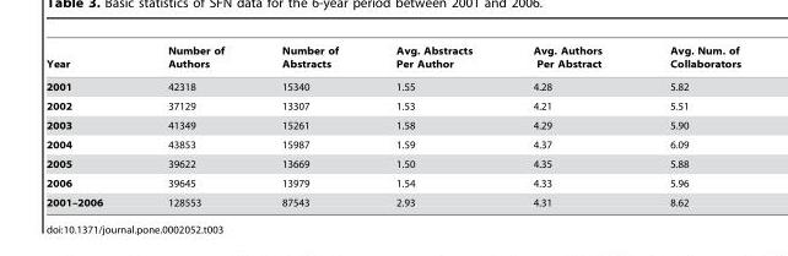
<table><thead><tr><td>Year</td><td>Number of Authors</td><td>Number of Abstracts</td><td>Avg. Abstracts Per Author</td><td>Avg. Authors Per Abstract</td><td>Avg. Num. of Collaborators</td></tr></thead><tbody><tr><td>2001</td><td>42318</td><td>15340</td><td>1.55</td><td>4.28</td><td>5.82</td></tr><tr><td>2002</td><td>37129</td><td>13307</td><td>1.53</td><td>4.21</td><td>5.51</td></tr><tr><td>2003</td><td>41349</td><td>15261</td><td>1.58</td><td>4.29</td><td>5.90</td></tr><tr><td>2004</td><td>43853</td><td>15987</td><td>1.59</td><td>4.37</td><td>6.09</td></tr><tr><td>2005</td><td>39622</td><td>13669</td><td>1.50</td><td>4.35</td><td>5.88</td></tr><tr><td>2006</td><td>39645</td><td>13979</td><td>1.54</td><td>4.33</td><td>5.96</td></tr><tr><td>2001–2006</td><td>128553</td><td>87543</td><td>2.93</td><td>4.31</td><td>8.62</td></tr></tbody></table>